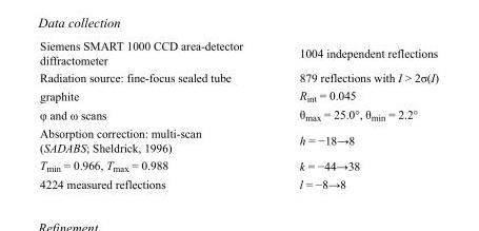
<table><tbody><tr><td>Siemens SMART 1000 CCD area-detector diffractometer</td><td>1004 independent reflections</td></tr><tr><td>Radiation source: fine-focus sealed tube</td><td>879 reflections with I &gt; 2σ(I)</td></tr><tr><td>graphite</td><td>R<sub>int</sub> = 0.045</td></tr><tr><td>φ and ω scans</td><td>θ<sub>max</sub> = 25.0°, θ<sub>min</sub> = 2.2°</td></tr><tr><td>Absorption correction: multi-scan (SADABS; Sheldrick, 1996)</td><td>h = −18→8</td></tr><tr><td>T<sub>min</sub> = 0.966, T<sub>max</sub> = 0.988</td><td>k = −44→38</td></tr><tr><td>4224 measured reflections</td><td>l = −8→8</td></tr></tbody></table>